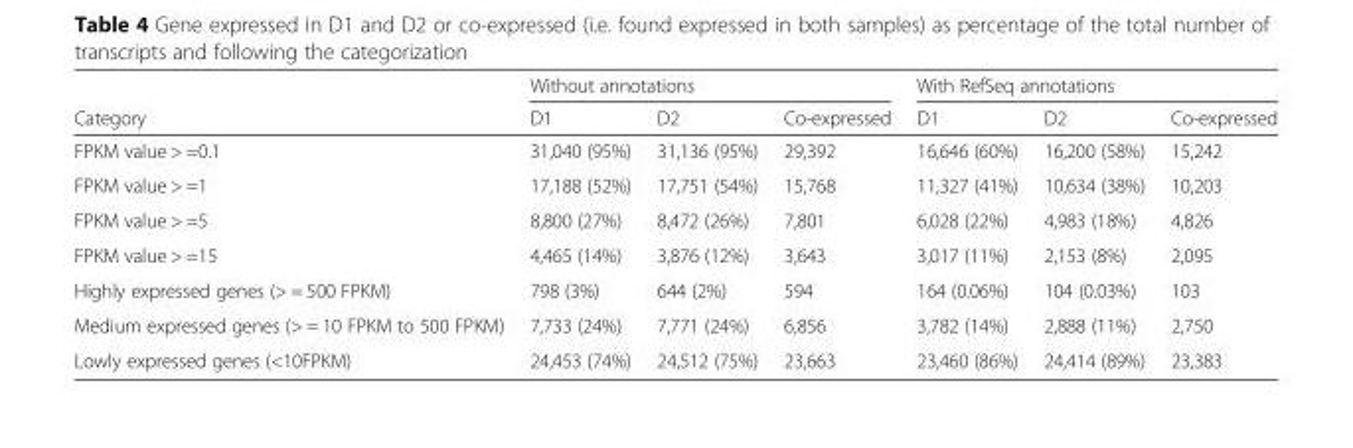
<table><thead><tr><td rowspan="2">Category</td><td colspan="3">Without annotations</td><td colspan="3">With RefSeq annotations</td></tr><tr><td>D1</td><td>D2</td><td>Co-expressed</td><td>D1</td><td>D2</td><td>Co-expressed</td></tr></thead><tbody><tr><td>FPKM value &gt; =0.1</td><td>31,040 (95%)</td><td>31,136 (95%)</td><td>29,392</td><td>16,646 (60%)</td><td>16,200 (58%)</td><td>15,242</td></tr><tr><td>FPKM value &gt; =1</td><td>17,188 (52%)</td><td>17,751 (54%)</td><td>15,768</td><td>11,327 (41%)</td><td>10,634 (38%)</td><td>10,203</td></tr><tr><td>FPKM value &gt; =5</td><td>8,800 (27%)</td><td>8,472 (26%)</td><td>7,801</td><td>6,028 (22%)</td><td>4,983 (18%)</td><td>4,826</td></tr><tr><td>FPKM value &gt; =15</td><td>4,465 (14%)</td><td>3,876 (12%)</td><td>3,643</td><td>3,017 (11%)</td><td>2,153 (8%)</td><td>2,095</td></tr><tr><td>Highly expressed genes (&gt; = 500 FPKM)</td><td>798 (3%)</td><td>644 (2%)</td><td>594</td><td>164 (0.06%)</td><td>104 (0.03%)</td><td>103</td></tr><tr><td>Medium expressed genes (&gt; = 10 FPKM to 500 FPKM)</td><td>7,733 (24%)</td><td>7,771 (24%)</td><td>6,856</td><td>3,782 (14%)</td><td>2,888 (11%)</td><td>2,750</td></tr><tr><td>Lowly expressed genes (&lt;10FPKM)</td><td>24,453 (74%)</td><td>24,512 (75%)</td><td>23,663</td><td>23,460 (86%)</td><td>24,414 (89%)</td><td>23,383</td></tr></tbody></table>